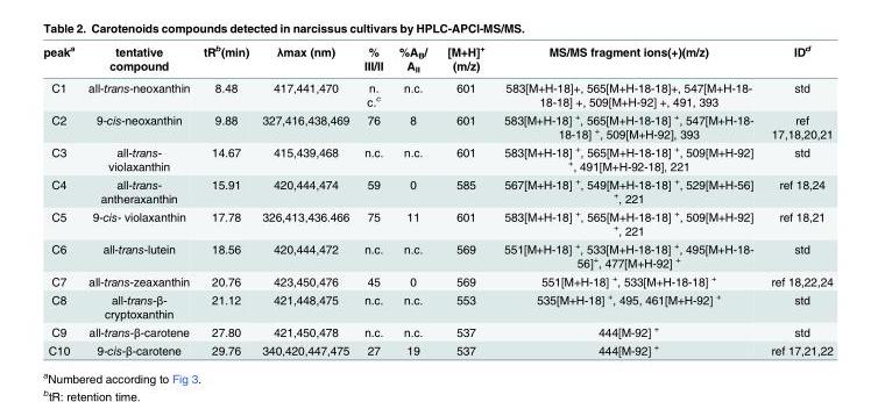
<table><thead><tr><td>peak<sup>a</sup></td><td>tentative compound</td><td>tR<sup>b</sup>(min)</td><td>λmax (nm)</td><td>% III/II</td><td>%A<sub>B</sub>/ A<sub>II</sub></td><td>[M+H]<sup>+</sup> (m/z)</td><td>MS/MS fragment ions(+)(m/z)</td><td>ID<sup>d</sup></td></tr></thead><tbody><tr><td>C1</td><td>all-trans-neoxanthin</td><td>8.48</td><td>417,441,470</td><td>n. c.<sup>c</sup></td><td>n.c.</td><td>601</td><td>583[M+H-18]+, 565[M+H-18-18]+, 547[M+H-18- 18-18] +, 509[M+H-92] +, 491, 393</td><td>std</td></tr><tr><td>C2</td><td>9-cis-neoxanthin</td><td>9.88</td><td>327,416,438,469</td><td>76</td><td>8</td><td>601</td><td>583[M+H-18] <sup>+</sup>, 565[M+H-18-18] <sup>+</sup>, 547[M+H-18- 18-18] <sup>+</sup>, 509[M+H-92], 393</td><td>ref 17,18,20,21</td></tr><tr><td>C3</td><td>all-trans- violaxanthin</td><td>14.67</td><td>415,439,468</td><td>n.c.</td><td>n.c.</td><td>601</td><td>583[M+H-18] <sup>+</sup>, 565[M+H-18-18] <sup>+</sup>, 509[M+H-92] <sup>+</sup>, 491[M+H-92-18], 221</td><td>std</td></tr><tr><td>C4</td><td>all-trans- antheraxanthin</td><td>15.91</td><td>420,444,474</td><td>59</td><td>0</td><td>585</td><td>567[M+H-18] <sup>+</sup>, 549[M+H-18-18] <sup>+</sup>, 529[M+H-56] <sup>+</sup>, 221</td><td>ref 18,24</td></tr><tr><td>C5</td><td>9-cis- violaxanthin</td><td>17.78</td><td>326,413,436.466</td><td>75</td><td>11</td><td>601</td><td>583[M+H-18] <sup>+</sup>, 565[M+H-18-18] <sup>+</sup>, 509[M+H-92] <sup>+</sup>, 221</td><td>ref 18,21</td></tr><tr><td>C6</td><td>all-trans-lutein</td><td>18.56</td><td>420,444,472</td><td>n.c.</td><td>n.c.</td><td>569</td><td>551[M+H-18] <sup>+</sup>, 533[M+H-18-18] <sup>+</sup>, 495[M+H-18- 56]<sup>+</sup>, 477[M+H-92] <sup>+</sup></td><td>std</td></tr><tr><td>C7</td><td>all-trans-zeaxanthin</td><td>20.76</td><td>423,450,476</td><td>45</td><td>0</td><td>569</td><td>551[M+H-18] <sup>+</sup>, 533[M+H-18-18] <sup>+</sup></td><td>ref 18,22,24</td></tr><tr><td>C8</td><td>all-trans-β- cryptoxanthin</td><td>21.12</td><td>421,448,475</td><td>n.c.</td><td>n.c.</td><td>553</td><td>535[M+H-18] <sup>+</sup>, 495, 461[M+H-92] <sup>+</sup></td><td>std</td></tr><tr><td>C9</td><td>all-trans-β-carotene</td><td>27.80</td><td>421,450,478</td><td>n.c.</td><td>n.c.</td><td>537</td><td>444[M-92] <sup>+</sup></td><td>std</td></tr><tr><td>C10</td><td>9-cis-β-carotene</td><td>29.76</td><td>340,420,447,475</td><td>27</td><td>19</td><td>537</td><td>444[M-92] <sup>+</sup></td><td>ref 17,21,22</td></tr></tbody></table>